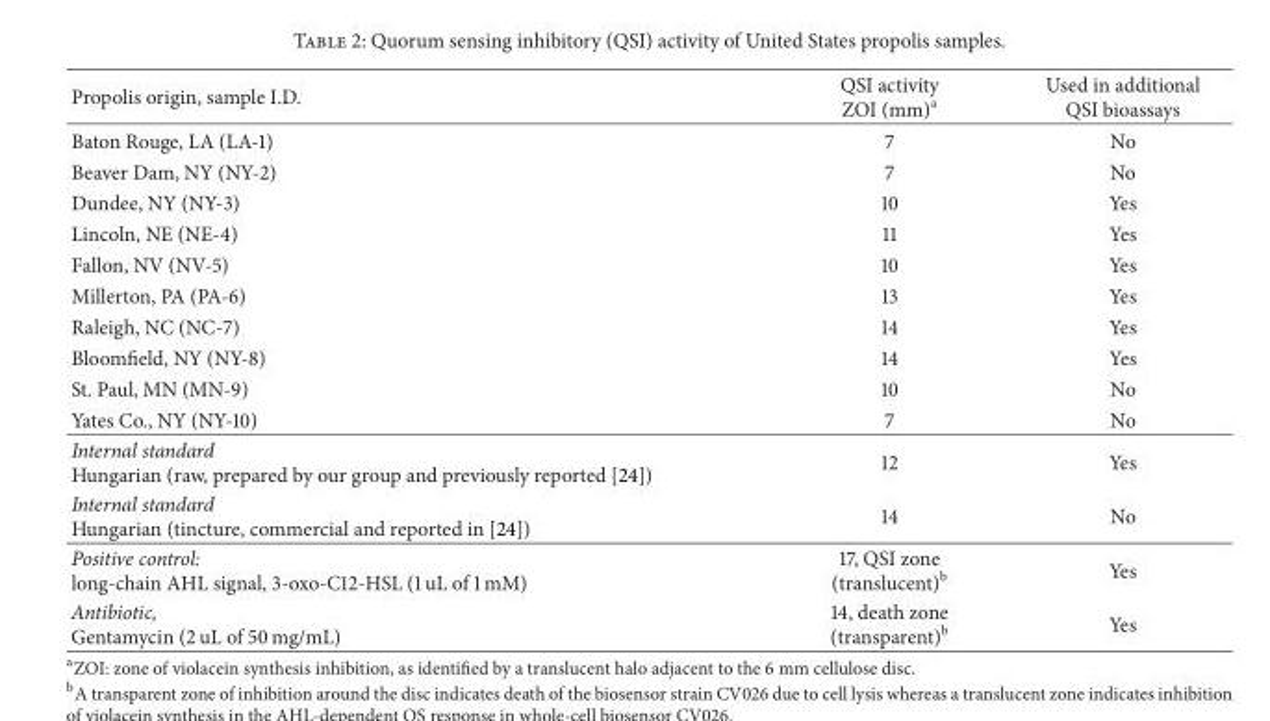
<table><thead><tr><td>Propolis origin, sample I.D.</td><td>QSI activity ZOI (mm)<sup>a</sup></td><td>Used in additional QSI bioassays</td></tr></thead><tbody><tr><td>Baton Rouge, LA (LA-1)</td><td>7</td><td>No</td></tr><tr><td>Beaver Dam, NY (NY-2)</td><td>7</td><td>No</td></tr><tr><td>Dundee, NY (NY-3)</td><td>10</td><td>Yes</td></tr><tr><td>Lincoln, NE (NE-4)</td><td>11</td><td>Yes</td></tr><tr><td>Fallon, NV (NV-5)</td><td>10</td><td>Yes</td></tr><tr><td>Millerton, PA (PA-6)</td><td>13</td><td>Yes</td></tr><tr><td>Raleigh, NC (NC-7)</td><td>14</td><td>Yes</td></tr><tr><td>Bloomfield, NY (NY-8)</td><td>14</td><td>Yes</td></tr><tr><td>St. Paul, MN (MN-9)</td><td>10</td><td>No</td></tr><tr><td>Yates Co., NY (NY-10)</td><td>7</td><td>No</td></tr><tr><td>Internal standard Hungarian (raw, prepared by our group and previously reported [24])</td><td>12</td><td>Yes</td></tr><tr><td>Internal standard Hungarian (tincture, commercial and reported in [24])</td><td>14</td><td>No</td></tr><tr><td>Positive control: long-chain AHL signal, 3-oxo-C12-HSL (1 uL of 1 mM)</td><td>17, QSI zone (translucent)<sup>b</sup></td><td>Yes</td></tr><tr><td>Antibiotic, Gentamycin (2 uL of 50 mg/mL)</td><td>14, death zone (transparent)<sup>b</sup></td><td>Yes</td></tr></tbody></table>